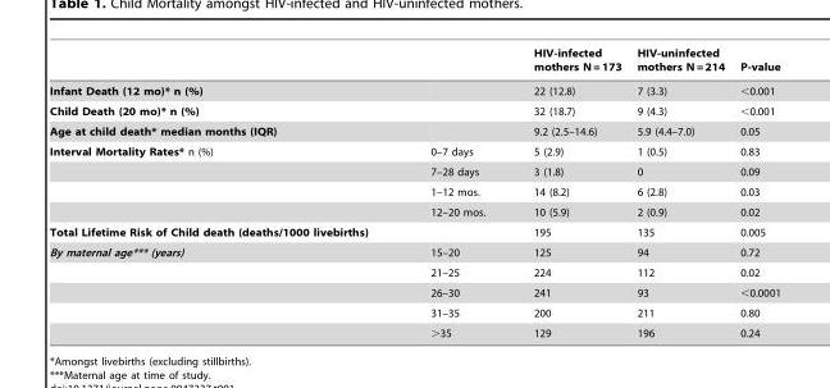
<table><thead><tr><td></td><td></td><td>HIV-infected mothers N = 173</td><td>HIV-uninfected mothers N = 214</td><td>P-value</td></tr></thead><tbody><tr><td>Infant Death (12 mo)* n (%)</td><td></td><td>22 (12.8)</td><td>7 (3.3)</td><td>&lt;0.001</td></tr><tr><td>Child Death (20 mo)* n (%)</td><td></td><td>32 (18.7)</td><td>9 (4.3)</td><td>&lt;0.001</td></tr><tr><td>Age at child death* median months (IQR)</td><td></td><td>9.2 (2.5–14.6)</td><td>5.9 (4.4–7.0)</td><td>0.05</td></tr><tr><td rowspan="4">Interval Mortality Rates* n (%)</td><td>0–7 days</td><td>5 (2.9)</td><td>1 (0.5)</td><td>0.83</td></tr><tr><td>7–28 days</td><td>3 (1.8)</td><td>0</td><td>0.09</td></tr><tr><td>1–12 mos.</td><td>14 (8.2)</td><td>6 (2.8)</td><td>0.03</td></tr><tr><td>12–20 mos.</td><td>10 (5.9)</td><td>2 (0.9)</td><td>0.02</td></tr><tr><td>Total Lifetime Risk of Child death (deaths/1000 livebirths)</td><td></td><td>195</td><td>135</td><td>0.005</td></tr><tr><td rowspan="5">By maternal age*** (years)</td><td>15–20</td><td>125</td><td>94</td><td>0.72</td></tr><tr><td>21–25</td><td>224</td><td>112</td><td>0.02</td></tr><tr><td>26–30</td><td>241</td><td>93</td><td>&lt;0.0001</td></tr><tr><td>31–35</td><td>200</td><td>211</td><td>0.80</td></tr><tr><td>&gt;35</td><td>129</td><td>196</td><td>0.24</td></tr></tbody></table>